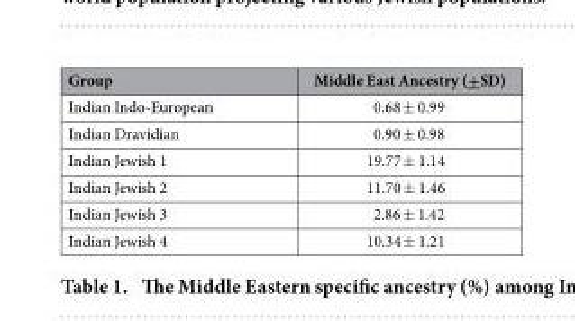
<table><thead><tr><td>Group</td><td>Middle East Ancestry (+SD)</td></tr></thead><tbody><tr><td>Indian Indo-European</td><td>0.68 ± 0.99</td></tr><tr><td>Indian Dravidian</td><td>0.90 ± 0.98</td></tr><tr><td>Indian Jewish 1</td><td>19.77 ± 1.14</td></tr><tr><td>Indian Jewish 2</td><td>11.70 ± 1.46</td></tr><tr><td>Indian Jewish 3</td><td>2.86 ± 1.42</td></tr><tr><td>Indian Jewish 4</td><td>10.34 ± 1.21</td></tr></tbody></table>